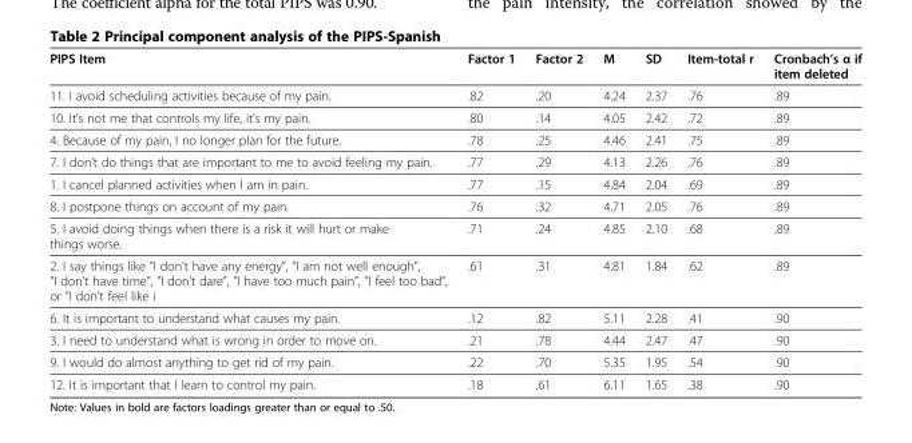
<table><thead><tr><td>PIPS Item</td><td>Factor 1</td><td>Factor 2</td><td>M</td><td>SD</td><td>Item-total r</td><td>Cronbach’s α if item deleted</td></tr></thead><tbody><tr><td>11. I avoid scheduling activities because of my pain.</td><td>.82</td><td>.20</td><td>4.24</td><td>2.37</td><td>.76</td><td>.89</td></tr><tr><td>10. It’s not me that controls my life, it’s my pain.</td><td>.80</td><td>.14</td><td>4.05</td><td>2.42</td><td>.72</td><td>.89</td></tr><tr><td>4. Because of my pain, I no longer plan for the future.</td><td>.78</td><td>.25</td><td>4.46</td><td>2.41</td><td>.75</td><td>.89</td></tr><tr><td>7. I don’t do things that are important to me to avoid feeling my pain.</td><td>.77</td><td>.29</td><td>4.13</td><td>2.26</td><td>.76</td><td>.89</td></tr><tr><td>1. I cancel planned activities when I am in pain.</td><td>.77</td><td>.15</td><td>4.84</td><td>2.04</td><td>.69</td><td>.89</td></tr><tr><td>8. I postpone things on account of my pain.</td><td>.76</td><td>.32</td><td>4.71</td><td>2.05</td><td>.76</td><td>.89</td></tr><tr><td>5. I avoid doing things when there is a risk it will hurt or make things worse.</td><td>.71</td><td>.24</td><td>4.85</td><td>2.10</td><td>.68</td><td>.89</td></tr><tr><td>2. I say things like ”I don’t have any energy”, ”I am not well enough”, ”I don’t have time”, ”I don’t dare”, ”I have too much pain”, ”I feel too bad”, or ”I don’t feel like i</td><td>.61</td><td>.31</td><td>4.81</td><td>1.84</td><td>.62</td><td>.89</td></tr><tr><td>6. It is important to understand what causes my pain.</td><td>.12</td><td>.82</td><td>5.11</td><td>2.28</td><td>.41</td><td>.90</td></tr><tr><td>3. I need to understand what is wrong in order to move on.</td><td>.21</td><td>.78</td><td>4.44</td><td>2.47</td><td>.47</td><td>.90</td></tr><tr><td>9. I would do almost anything to get rid of my pain.</td><td>.22</td><td>.70</td><td>5.35</td><td>1.95</td><td>.54</td><td>.90</td></tr><tr><td>12. It is important that I learn to control my pain.</td><td>.18</td><td>.61</td><td>6.11</td><td>1.65</td><td>.38</td><td>.90</td></tr></tbody></table>